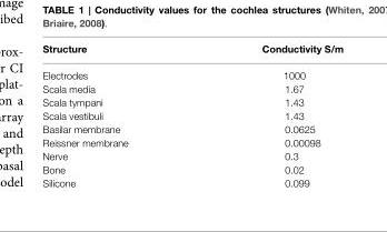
<table><thead><tr><td>Structure</td><td>Conductivity S/m</td></tr></thead><tbody><tr><td>Electrodes</td><td>1000</td></tr><tr><td>Scala media</td><td>1.67</td></tr><tr><td>Scala tympani</td><td>1.43</td></tr><tr><td>Scala vestibuli</td><td>1.43</td></tr><tr><td>Basilar membrane</td><td>0.0625</td></tr><tr><td>Reissner membrane</td><td>0.00098</td></tr><tr><td>Nerve</td><td>0.3</td></tr><tr><td>Bone</td><td>0.02</td></tr><tr><td>Silicone</td><td>0.099</td></tr></tbody></table>